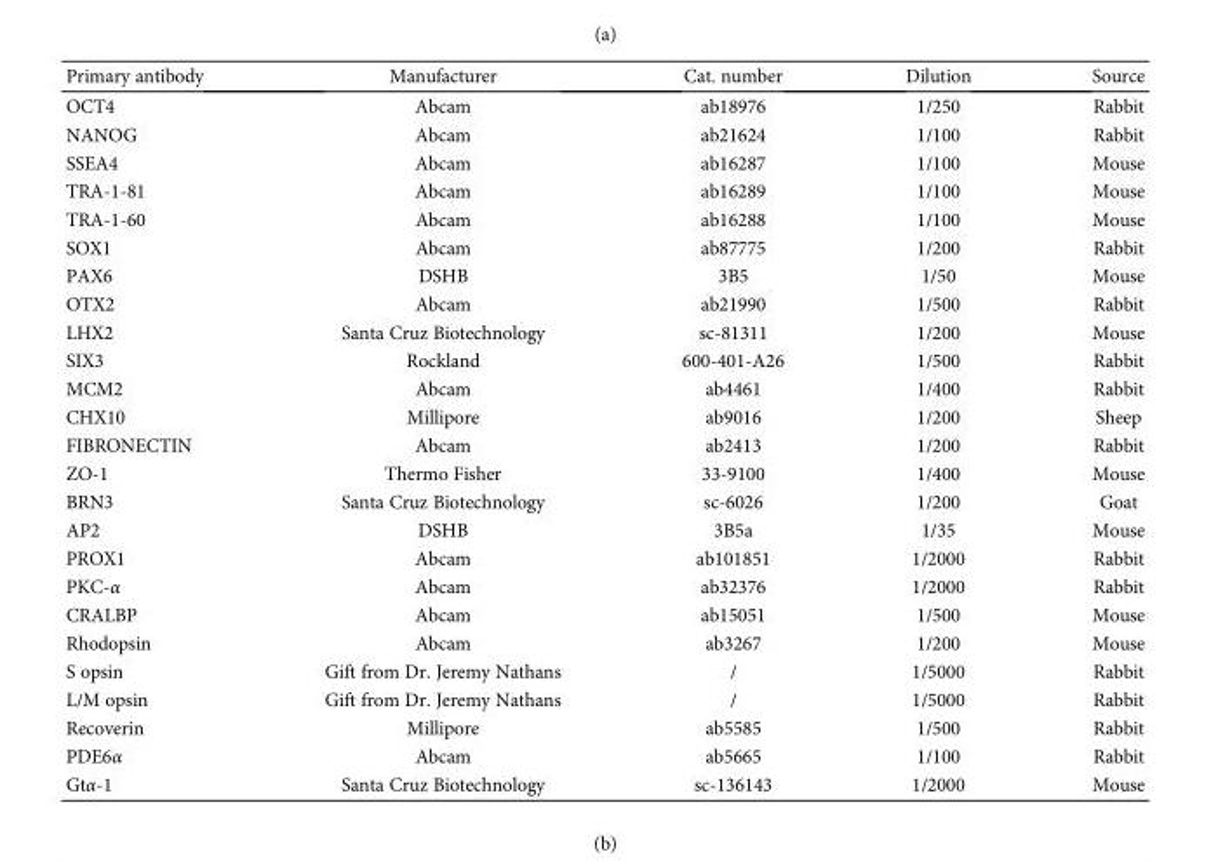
<table><thead><tr><td>Primary antibody</td><td>Manufacturer</td><td>Cat. number</td><td>Dilution</td><td>Source</td></tr></thead><tbody><tr><td>OCT4</td><td>Abcam</td><td>ab18976</td><td>1/250</td><td>Rabbit</td></tr><tr><td>NANOG</td><td>Abcam</td><td>ab21624</td><td>1/100</td><td>Rabbit</td></tr><tr><td>SSEA4</td><td>Abcam</td><td>ab16287</td><td>1/100</td><td>Mouse</td></tr><tr><td>TRA-1-81</td><td>Abcam</td><td>ab16289</td><td>1/100</td><td>Mouse</td></tr><tr><td>TRA-1-60</td><td>Abcam</td><td>ab16288</td><td>1/100</td><td>Mouse</td></tr><tr><td>SOX1</td><td>Abcam</td><td>ab87775</td><td>1/200</td><td>Rabbit</td></tr><tr><td>PAX6</td><td>DSHB</td><td>3B5</td><td>1/50</td><td>Mouse</td></tr><tr><td>OTX2</td><td>Abcam</td><td>ab21990</td><td>1/500</td><td>Rabbit</td></tr><tr><td>LHX2</td><td>Santa Cruz Biotechnology</td><td>sc-81311</td><td>1/200</td><td>Mouse</td></tr><tr><td>SIX3</td><td>Rockland</td><td>600-401-A26</td><td>1/500</td><td>Rabbit</td></tr><tr><td>MCM2</td><td>Abcam</td><td>ab4461</td><td>1/400</td><td>Rabbit</td></tr><tr><td>CHX10</td><td>Millipore</td><td>ab9016</td><td>1/200</td><td>Sheep</td></tr><tr><td>FIBRONECTIN</td><td>Abcam</td><td>ab2413</td><td>1/200</td><td>Rabbit</td></tr><tr><td>ZO-1</td><td>Thermo Fisher</td><td>33-9100</td><td>1/400</td><td>Mouse</td></tr><tr><td>BRN3</td><td>Santa Cruz Biotechnology</td><td>sc-6026</td><td>1/200</td><td>Goat</td></tr><tr><td>AP2</td><td>DSHB</td><td>3B5a</td><td>1/35</td><td>Mouse</td></tr><tr><td>PROX1</td><td>Abcam</td><td>ab101851</td><td>1/2000</td><td>Rabbit</td></tr><tr><td>PKC-α</td><td>Abcam</td><td>ab32376</td><td>1/2000</td><td>Rabbit</td></tr><tr><td>CRALBP</td><td>Abcam</td><td>ab15051</td><td>1/500</td><td>Mouse</td></tr><tr><td>Rhodopsin</td><td>Abcam</td><td>ab3267</td><td>1/200</td><td>Mouse</td></tr><tr><td>S opsin</td><td>Gift from Dr. Jeremy Nathans</td><td>/</td><td>1/5000</td><td>Rabbit</td></tr><tr><td>L/M opsin</td><td>Gift from Dr. Jeremy Nathans</td><td>/</td><td>1/5000</td><td>Rabbit</td></tr><tr><td>Recoverin</td><td>Millipore</td><td>ab5585</td><td>1/500</td><td>Rabbit</td></tr><tr><td>PDE6α</td><td>Abcam</td><td>ab5665</td><td>1/100</td><td>Rabbit</td></tr><tr><td>Gtα-1</td><td>Santa Cruz Biotechnology</td><td>sc-136143</td><td>1/2000</td><td>Mouse</td></tr></tbody></table>